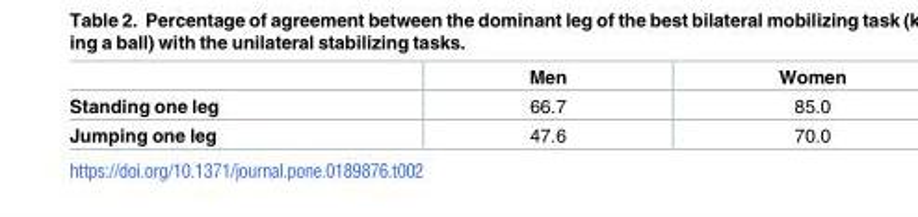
<table><thead><tr><td></td><td>Men</td><td>Women</td></tr></thead><tbody><tr><td>Standing one leg</td><td>66.7</td><td>85.0</td></tr><tr><td>Jumping one leg</td><td>47.6</td><td>70.0</td></tr></tbody></table>